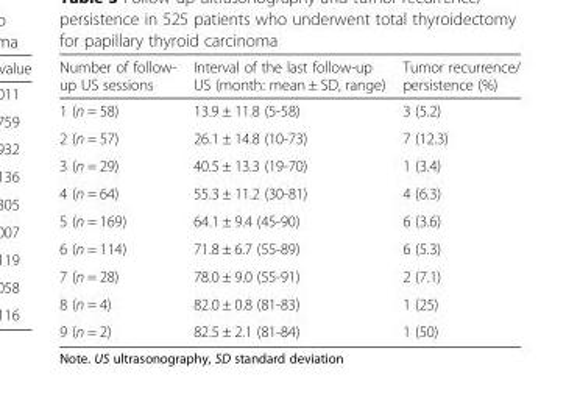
<table><thead><tr><td>Number of follow- up US sessions</td><td>Interval of the last follow-up US (month: mean ± SD, range)</td><td>Tumor recurrence/ persistence (%)</td></tr></thead><tbody><tr><td>1 (n = 58)</td><td>13.9 ± 11.8 (5-58)</td><td>3 (5.2)</td></tr><tr><td>2 (n = 57)</td><td>26.1 ± 14.8 (10-73)</td><td>7 (12.3)</td></tr><tr><td>3 (n = 29)</td><td>40.5 ± 13.3 (19-70)</td><td>1 (3.4)</td></tr><tr><td>4 (n = 64)</td><td>55.3 ± 11.2 (30-81)</td><td>4 (6.3)</td></tr><tr><td>5 (n = 169)</td><td>64.1 ± 9.4 (45-90)</td><td>6 (3.6)</td></tr><tr><td>6 (n = 114)</td><td>71.8 ± 6.7 (55-89)</td><td>6 (5.3)</td></tr><tr><td>7 (n = 28)</td><td>78.0 ± 9.0 (55-91)</td><td>2 (7.1)</td></tr><tr><td>8 (n = 4)</td><td>82.0 ± 0.8 (81-83)</td><td>1 (25)</td></tr><tr><td>9 (n = 2)</td><td>82.5 ± 2.1 (81-84)</td><td>1 (50)</td></tr></tbody></table>